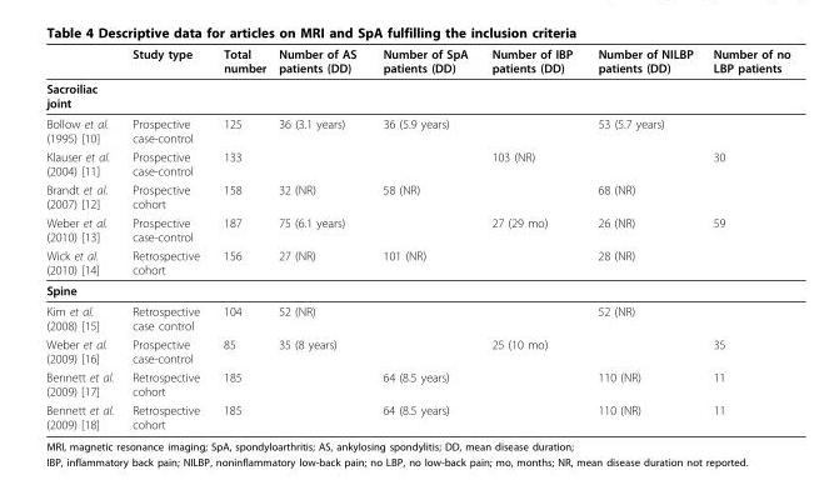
<table><thead><tr><td></td><td>Study type</td><td>Total number</td><td>Number of AS patients (DD)</td><td>Number of SpA patients (DD)</td><td>Number of IBP patients (DD)</td><td>Number of NILBP patients (DD)</td><td>Number of no LBP patients</td></tr></thead><tbody><tr><td colspan="8">Sacroiliac joint</td></tr><tr><td>Bollow et al. (1995) [10]</td><td>Prospective case-control</td><td>125</td><td>36 (3.1 years)</td><td>36 (5.9 years)</td><td></td><td>53 (5.7 years)</td><td></td></tr><tr><td>Klauser et al. (2004) [11]</td><td>Prospective case-control</td><td>133</td><td></td><td></td><td>103 (NR)</td><td></td><td>30</td></tr><tr><td>Brandt et al. (2007) [12]</td><td>Prospective cohort</td><td>158</td><td>32 (NR)</td><td>58 (NR)</td><td></td><td>68 (NR)</td><td></td></tr><tr><td>Weber et al. (2010) [13]</td><td>Prospective case-control</td><td>187</td><td>75 (6.1 years)</td><td></td><td>27 (29 mo)</td><td>26 (NR)</td><td>59</td></tr><tr><td>Wick et al. (2010) [14]</td><td>Retrospective cohort</td><td>156</td><td>27 (NR)</td><td>101 (NR)</td><td></td><td>28 (NR)</td><td></td></tr><tr><td colspan="8">Spine</td></tr><tr><td>Kim et al. (2008) [15]</td><td>Retrospective case control</td><td>104</td><td>52 (NR)</td><td></td><td></td><td>52 (NR)</td><td></td></tr><tr><td>Weber et al. (2009) [16]</td><td>Prospective case-control</td><td>85</td><td>35 (8 years)</td><td></td><td>25 (10 mo)</td><td></td><td>35</td></tr><tr><td>Bennett et al. (2009) [17]</td><td>Retrospective cohort</td><td>185</td><td></td><td>64 (8.5 years)</td><td></td><td>110 (NR)</td><td>11</td></tr><tr><td>Bennett et al. (2009) [18]</td><td>Retrospective cohort</td><td>185</td><td></td><td>64 (8.5 years)</td><td></td><td>110 (NR)</td><td>11</td></tr></tbody></table>